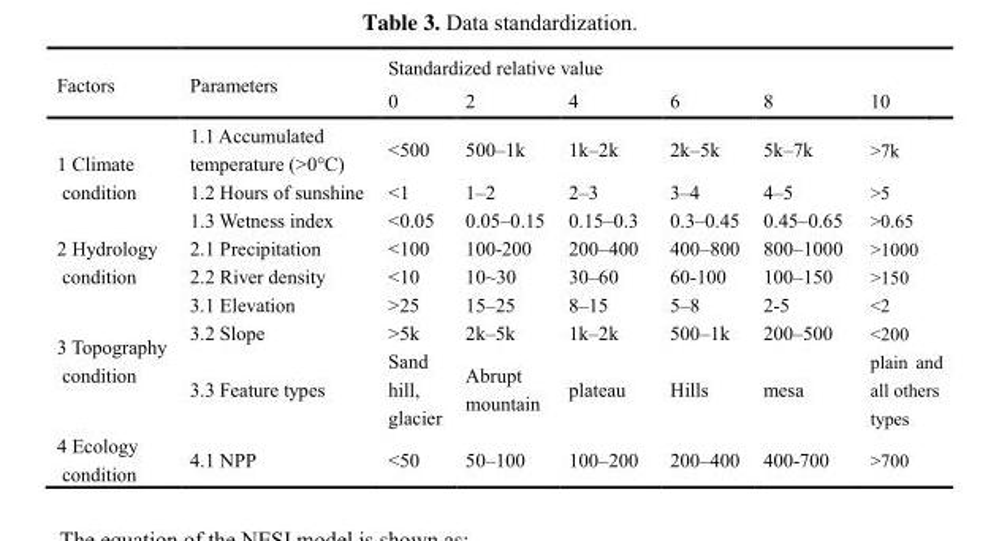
<table><thead><tr><td rowspan="2">Factors</td><td rowspan="2">Parameters</td><td colspan="6">Standardized relative value</td></tr><tr><td>0</td><td>2</td><td>4</td><td>6</td><td>8</td><td>10</td></tr></thead><tbody><tr><td rowspan="3">1 Climate condition</td><td>1.1 Accumulated temperature (&gt;0°C)</td><td>&lt;500</td><td>500–1k</td><td>1k–2k</td><td>2k–5k</td><td>5k–7k</td><td>&gt;7k</td></tr><tr><td>1.2 Hours of sunshine</td><td>&lt;1</td><td>1–2</td><td>2–3</td><td>3–4</td><td>4–5</td><td>&gt;5</td></tr><tr><td>1.3 Wetness index</td><td>&lt;0.05</td><td>0.05–0.15</td><td>0.15–0.3</td><td>0.3–0.45</td><td>0.45–0.65</td><td>&gt;0.65</td></tr><tr><td rowspan="2">2 Hydrology condition</td><td>2.1 Precipitation</td><td>&lt;100</td><td>100-200</td><td>200–400</td><td>400–800</td><td>800–1000</td><td>&gt;1000</td></tr><tr><td>2.2 River density</td><td>&lt;10</td><td>10~30</td><td>30–60</td><td>60-100</td><td>100–150</td><td>&gt;150</td></tr><tr><td rowspan="3">3 Topography condition</td><td>3.1 Elevation</td><td>&gt;25</td><td>15–25</td><td>8–15</td><td>5–8</td><td>2-5</td><td>&lt;2</td></tr><tr><td>3.2 Slope</td><td>&gt;5k</td><td>2k–5k</td><td>1k–2k</td><td>500–1k</td><td>200–500</td><td>&lt;200</td></tr><tr><td>3.3 Feature types</td><td>Sand hill, glacier</td><td>Abrupt mountain</td><td>plateau</td><td>Hills</td><td>mesa</td><td>plain and all others types</td></tr><tr><td>4 Ecology condition</td><td>4.1 NPP</td><td>&lt;50</td><td>50–100</td><td>100–200</td><td>200–400</td><td>400-700</td><td>&gt;700</td></tr></tbody></table>